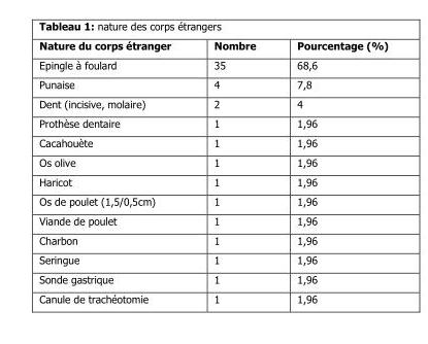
<table><thead><tr><td>Nature du corps étranger</td><td>Nombre</td><td>Pourcentage (%)</td></tr></thead><tbody><tr><td>Epingle à foulard</td><td>35</td><td>68,6</td></tr><tr><td>Punaise</td><td>4</td><td>7,8</td></tr><tr><td>Dent (incisive, molaire)</td><td>2</td><td>4</td></tr><tr><td>Prothèse dentaire</td><td>1</td><td>1,96</td></tr><tr><td>Cacahouète</td><td>1</td><td>1,96</td></tr><tr><td>Os olive</td><td>1</td><td>1,96</td></tr><tr><td>Haricot</td><td>1</td><td>1,96</td></tr><tr><td>Os de poulet (1,5/0,5cm)</td><td>1</td><td>1,96</td></tr><tr><td>Viande de poulet</td><td>1</td><td>1,96</td></tr><tr><td>Charbon</td><td>1</td><td>1,96</td></tr><tr><td>Seringue</td><td>1</td><td>1,96</td></tr><tr><td>Sonde gastrique</td><td>1</td><td>1,96</td></tr><tr><td>Canule de trachéotomie</td><td>1</td><td>1,96</td></tr></tbody></table>